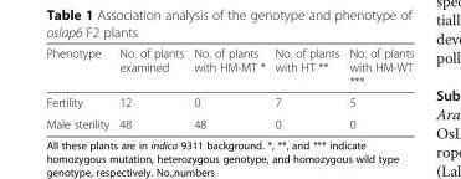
<table><thead><tr><td>Phenotype</td><td>No. of plants examined</td><td>No. of plants with HM-MT *</td><td>No. of plants with HT **</td><td>No. of plants with HM-WT ***</td></tr></thead><tbody><tr><td>Fertility</td><td>12</td><td>0</td><td>7</td><td>5</td></tr><tr><td>Male sterility</td><td>48</td><td>48</td><td>0</td><td>0</td></tr></tbody></table>